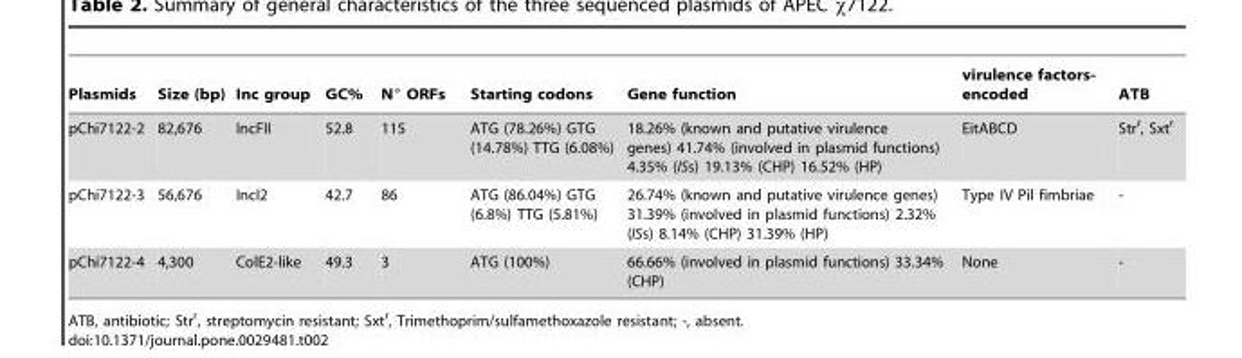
<table><thead><tr><td>Plasmids</td><td>Size (bp)</td><td>Inc group</td><td>GC%</td><td>N° ORFs</td><td>Starting codons</td><td>Gene function</td><td>virulence factors- encoded</td><td>ATB</td></tr></thead><tbody><tr><td>pChi7122-2</td><td>82,676</td><td>IncFII</td><td>52.8</td><td>115</td><td>ATG (78.26%) GTG (14.78%) TTG (6.08%)</td><td>18.26% (known and putative virulence genes) 41.74% (involved in plasmid functions) 4.35% (ISs) 19.13% (CHP) 16.52% (HP)</td><td>EitABCD</td><td>Str<sup>r</sup>, Sxt<sup>r</sup></td></tr><tr><td>pChi7122-3</td><td>56,676</td><td>IncI2</td><td>42.7</td><td>86</td><td>ATG (86.04%) GTG (6.8%) TTG (5.81%)</td><td>26.74% (known and putative virulence genes) 31.39% (involved in plasmid functions) 2.32% (ISs) 8.14% (CHP) 31.39% (HP)</td><td>Type IV Pil fimbriae</td><td>-</td></tr><tr><td>pChi7122-4</td><td>4,300</td><td>ColE2-like</td><td>49.3</td><td>3</td><td>ATG (100%)</td><td>66.66% (involved in plasmid functions) 33.34% (CHP)</td><td>None</td><td>-</td></tr></tbody></table>